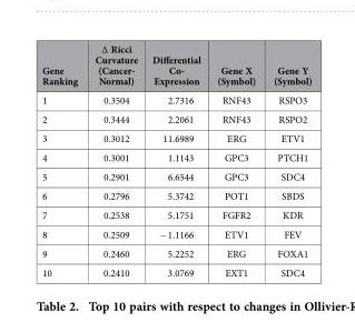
<table><thead><tr><td>Gene Ranking</td><td>∆ Ricci Curvature (Cancer- Normal)</td><td>Differential Co- Expression</td><td>Gene X (Symbol)</td><td>Gene Y (Symbol)</td></tr></thead><tbody><tr><td>1</td><td>0.3504</td><td>2.7316</td><td>RNF43</td><td>RSPO3</td></tr><tr><td>2</td><td>0.3444</td><td>2.2061</td><td>RNF43</td><td>RSPO2</td></tr><tr><td>3</td><td>0.3012</td><td>11.6989</td><td>ERG</td><td>ETV1</td></tr><tr><td>4</td><td>0.3001</td><td>1.1143</td><td>GPC3</td><td>PTCH1</td></tr><tr><td>5</td><td>0.2901</td><td>6.6544</td><td>GPC3</td><td>SDC4</td></tr><tr><td>6</td><td>0.2796</td><td>5.3742</td><td>POT1</td><td>SBDS</td></tr><tr><td>7</td><td>0.2538</td><td>5.1751</td><td>FGFR2</td><td>KDR</td></tr><tr><td>8</td><td>0.2509</td><td>− 1.1166</td><td>ETV1</td><td>FEV</td></tr><tr><td>9</td><td>0.2460</td><td>5.2252</td><td>ERG</td><td>FOXA1</td></tr><tr><td>10</td><td>0.2410</td><td>3.0769</td><td>EXT1</td><td>SDC4</td></tr></tbody></table>